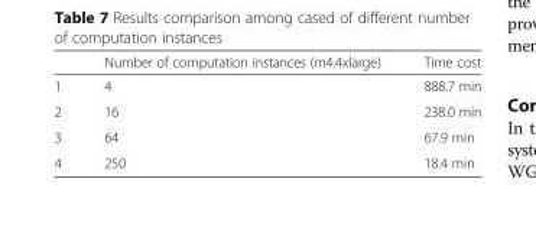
<table><thead><tr><td></td><td>Number of computation instances (m4.4xlarge)</td><td>Time cost</td></tr></thead><tbody><tr><td>1</td><td>4</td><td>888.7 min</td></tr><tr><td>2</td><td>16</td><td>238.0 min</td></tr><tr><td>3</td><td>64</td><td>67.9 min</td></tr><tr><td>4</td><td>250</td><td>18.4 min</td></tr></tbody></table>